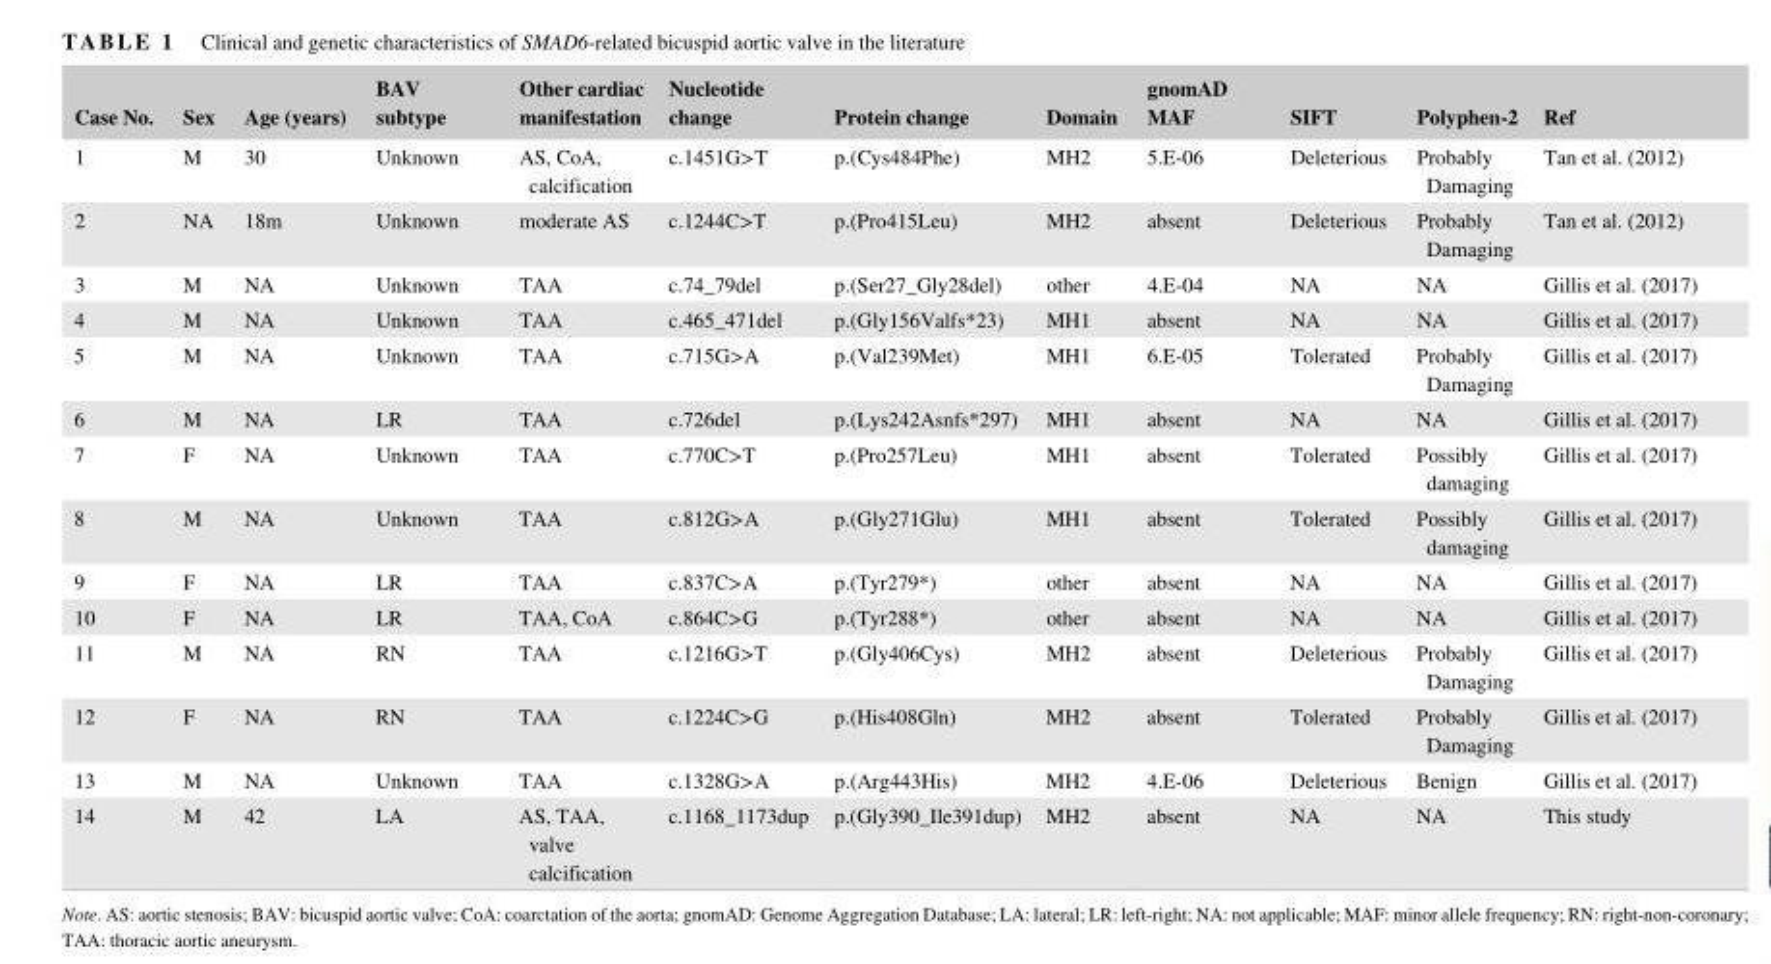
<table><thead><tr><td>Case No.</td><td>Sex</td><td>Age (years)</td><td>BAV subtype</td><td>Other cardiac manifestation</td><td>Nucleotide change</td><td>Protein change</td><td>Domain</td><td>gnomAD MAF</td><td>SIFT</td><td>Polyphen‐2</td><td>Ref</td></tr></thead><tbody><tr><td>1</td><td>M</td><td>30</td><td>Unknown</td><td>AS, CoA, calcification</td><td>c.1451G&gt;T</td><td>p.(Cys484Phe)</td><td>MH2</td><td>5.E‐06</td><td>Deleterious</td><td>Probably Damaging</td><td>Tan et al. (2012)</td></tr><tr><td>2</td><td>NA</td><td>18m</td><td>Unknown</td><td>moderate AS</td><td>c.1244C&gt;T</td><td>p.(Pro415Leu)</td><td>MH2</td><td>absent</td><td>Deleterious</td><td>Probably Damaging</td><td>Tan et al. (2012)</td></tr><tr><td>3</td><td>M</td><td>NA</td><td>Unknown</td><td>TAA</td><td>c.74_79del</td><td>p.(Ser27_Gly28del)</td><td>other</td><td>4.E‐04</td><td>NA</td><td>NA</td><td>Gillis et al. (2017)</td></tr><tr><td>4</td><td>M</td><td>NA</td><td>Unknown</td><td>TAA</td><td>c.465_471del</td><td>p.(Gly156Valfs*23)</td><td>MH1</td><td>absent</td><td>NA</td><td>NA</td><td>Gillis et al. (2017)</td></tr><tr><td>5</td><td>M</td><td>NA</td><td>Unknown</td><td>TAA</td><td>c.715G&gt;A</td><td>p.(Val239Met)</td><td>MH1</td><td>6.E‐05</td><td>Tolerated</td><td>Probably Damaging</td><td>Gillis et al. (2017)</td></tr><tr><td>6</td><td>M</td><td>NA</td><td>LR</td><td>TAA</td><td>c.726del</td><td>p.(Lys242Asnfs*297)</td><td>MH1</td><td>absent</td><td>NA</td><td>NA</td><td>Gillis et al. (2017)</td></tr><tr><td>7</td><td>F</td><td>NA</td><td>Unknown</td><td>TAA</td><td>c.770C&gt;T</td><td>p.(Pro257Leu)</td><td>MH1</td><td>absent</td><td>Tolerated</td><td>Possibly damaging</td><td>Gillis et al. (2017)</td></tr><tr><td>8</td><td>M</td><td>NA</td><td>Unknown</td><td>TAA</td><td>c.812G&gt;A</td><td>p.(Gly271Glu)</td><td>MH1</td><td>absent</td><td>Tolerated</td><td>Possibly damaging</td><td>Gillis et al. (2017)</td></tr><tr><td>9</td><td>F</td><td>NA</td><td>LR</td><td>TAA</td><td>c.837C&gt;A</td><td>p.(Tyr279*)</td><td>other</td><td>absent</td><td>NA</td><td>NA</td><td>Gillis et al. (2017)</td></tr><tr><td>10</td><td>F</td><td>NA</td><td>LR</td><td>TAA, CoA</td><td>c.864C&gt;G</td><td>p.(Tyr288*)</td><td>other</td><td>absent</td><td>NA</td><td>NA</td><td>Gillis et al. (2017)</td></tr><tr><td>11</td><td>M</td><td>NA</td><td>RN</td><td>TAA</td><td>c.1216G&gt;T</td><td>p.(Gly406Cys)</td><td>MH2</td><td>absent</td><td>Deleterious</td><td>Probably Damaging</td><td>Gillis et al. (2017)</td></tr><tr><td>12</td><td>F</td><td>NA</td><td>RN</td><td>TAA</td><td>c.1224C&gt;G</td><td>p.(His408Gln)</td><td>MH2</td><td>absent</td><td>Tolerated</td><td>Probably Damaging</td><td>Gillis et al. (2017)</td></tr><tr><td>13</td><td>M</td><td>NA</td><td>Unknown</td><td>TAA</td><td>c.1328G&gt;A</td><td>p.(Arg443His)</td><td>MH2</td><td>4.E‐06</td><td>Deleterious</td><td>Benign</td><td>Gillis et al. (2017)</td></tr><tr><td>14</td><td>M</td><td>42</td><td>LA</td><td>AS, TAA, valve calcification</td><td>c.1168_1173dup</td><td>p.(Gly390_Ile391dup)</td><td>MH2</td><td>absent</td><td>NA</td><td>NA</td><td>This study</td></tr></tbody></table>